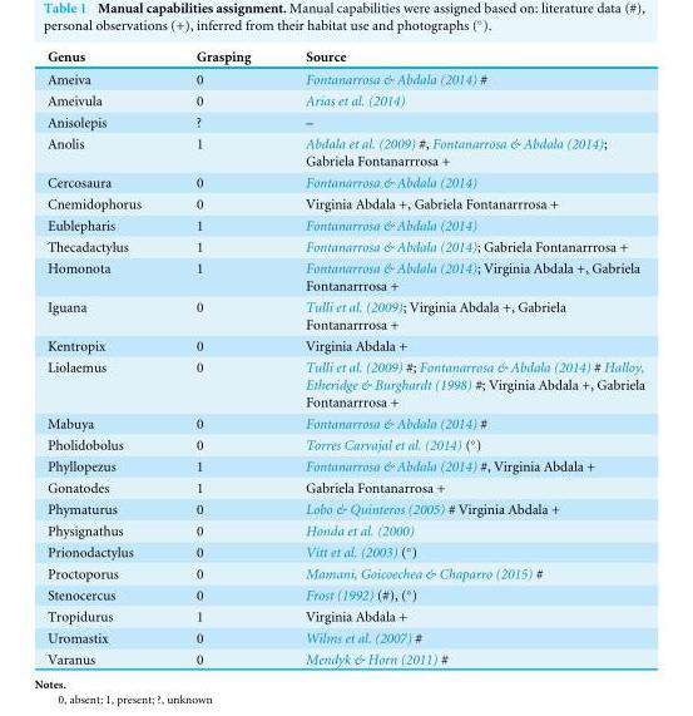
<table><thead><tr><td>Genus</td><td>Grasping</td><td>Source</td></tr></thead><tbody><tr><td>Ameiva</td><td>0</td><td>Fontanarrosa &amp; Abdala (2014) #</td></tr><tr><td>Ameivula</td><td>0</td><td>Arias et al. (2014)</td></tr><tr><td>Anisolepis</td><td>?</td><td>–</td></tr><tr><td>Anolis</td><td>1</td><td>Abdala et al. (2009) #, Fontanarrosa &amp; Abdala (2014); Gabriela Fontanarrrosa +</td></tr><tr><td>Cercosaura</td><td>0</td><td>Fontanarrosa &amp; Abdala (2014)</td></tr><tr><td>Cnemidophorus</td><td>0</td><td>Virginia Abdala +, Gabriela Fontanarrrosa +</td></tr><tr><td>Eublepharis</td><td>1</td><td>Fontanarrosa &amp; Abdala (2014)</td></tr><tr><td>Thecadactylus</td><td>1</td><td>Fontanarrosa &amp; Abdala (2014); Gabriela Fontanarrrosa +</td></tr><tr><td>Homonota</td><td>1</td><td>Fontanarrosa &amp; Abdala (2014); Virginia Abdala +, Gabriela Fontanarrrosa +</td></tr><tr><td>Iguana</td><td>0</td><td>Tulli et al. (2009); Virginia Abdala +, Gabriela Fontanarrrosa +</td></tr><tr><td>Kentropix</td><td>0</td><td>Virginia Abdala +</td></tr><tr><td>Liolaemus</td><td>0</td><td>Tulli et al. (2009) #; Fontanarrosa &amp; Abdala (2014) # Halloy, Etheridge &amp; Burghardt (1998) #; Virginia Abdala +, Gabriela Fontanarrrosa +</td></tr><tr><td>Mabuya</td><td>0</td><td>Fontanarrosa &amp; Abdala (2014) #</td></tr><tr><td>Pholidobolus</td><td>0</td><td>Torres Carvajal et al. (2014) (◦)</td></tr><tr><td>Phyllopezus</td><td>1</td><td>Fontanarrosa &amp; Abdala (2014) #, Virginia Abdala +</td></tr><tr><td>Gonatodes</td><td>1</td><td>Gabriela Fontanarrosa +</td></tr><tr><td>Phymaturus</td><td>0</td><td>Lobo &amp; Quinteros (2005) # Virginia Abdala +</td></tr><tr><td>Physignathus</td><td>0</td><td>Honda et al. (2000)</td></tr><tr><td>Prionodactylus</td><td>0</td><td>Vitt et al. (2003) (◦)</td></tr><tr><td>Proctoporus</td><td>0</td><td>Mamani, Goicoechea &amp; Chaparro (2015) #</td></tr><tr><td>Stenocercus</td><td>0</td><td>Frost (1992) (#), (◦)</td></tr><tr><td>Tropidurus</td><td>1</td><td>Virginia Abdala +</td></tr><tr><td>Uromastix</td><td>0</td><td>Wilms et al. (2007) #</td></tr><tr><td>Varanus</td><td>0</td><td>Mendyk &amp; Horn (2011) #</td></tr></tbody></table>